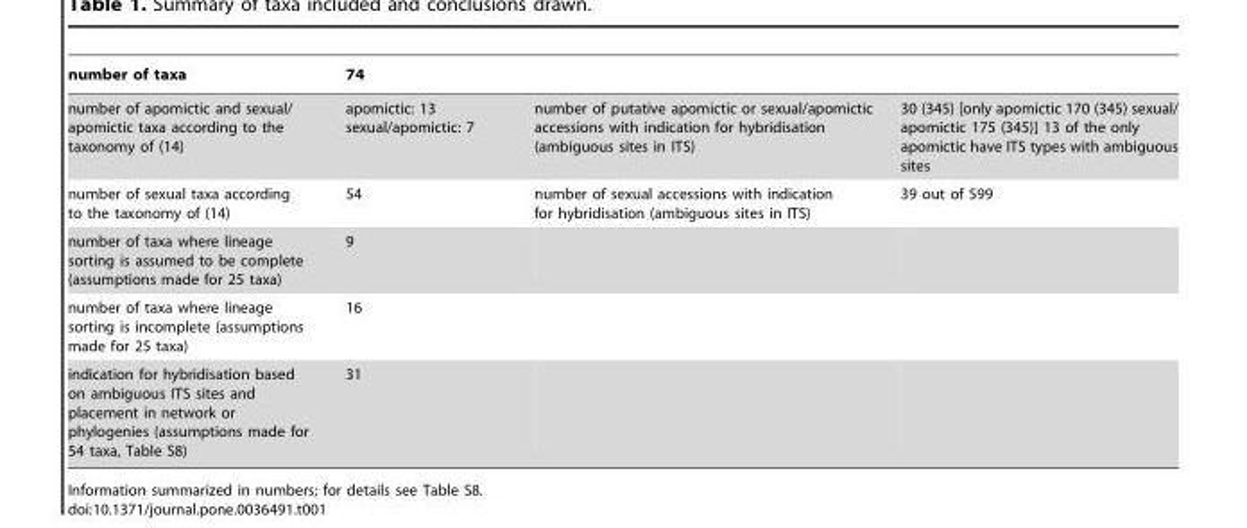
<table><thead><tr><td>number of taxa</td><td>74</td><td></td><td></td></tr></thead><tbody><tr><td>number of apomictic and sexual/ apomictic taxa according to the taxonomy of (14)</td><td>apomictic: 13 sexual/apomictic: 7</td><td>number of putative apomictic or sexual/apomictic accessions with indication for hybridisation (ambiguous sites in ITS)</td><td>30 (345) [only apomictic 170 (345) sexual/ apomictic 175 (345)] 13 of the only apomictic have ITS types with ambiguous sites</td></tr><tr><td>number of sexual taxa according to the taxonomy of (14)</td><td>54</td><td>number of sexual accessions with indication for hybridisation (ambiguous sites in ITS)</td><td>39 out of 599</td></tr><tr><td>number of taxa where lineage sorting is assumed to be complete (assumptions made for 25 taxa)</td><td>9</td><td></td><td></td></tr><tr><td>number of taxa where lineage sorting is incomplete (assumptions made for 25 taxa)</td><td>16</td><td></td><td></td></tr><tr><td>indication for hybridisation based on ambiguous ITS sites and placement in network or phylogenies (assumptions made for 54 taxa, Table S8)</td><td>31</td><td></td><td></td></tr></tbody></table>